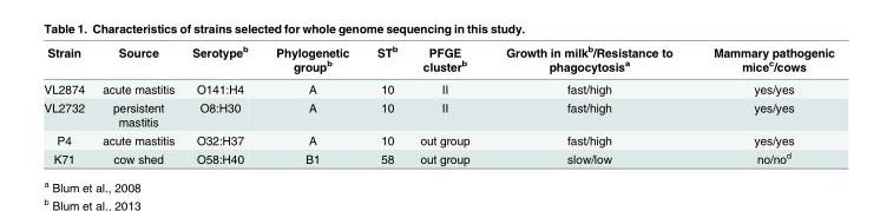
<table><thead><tr><td>Strain</td><td>Source</td><td>Serotype<sup>b</sup></td><td>Phylogenetic group<sup>b</sup></td><td>ST<sup>b</sup></td><td>PFGE cluster<sup>b</sup></td><td>Growth in milk<sup>b</sup>/Resistance to phagocytosis<sup>a</sup></td><td>Mammary pathogenic mice<sup>c</sup>/cows</td></tr></thead><tbody><tr><td>VL2874</td><td>acute mastitis</td><td>O141:H4</td><td>A</td><td>10</td><td>II</td><td>fast/high</td><td>yes/yes</td></tr><tr><td>VL2732</td><td>persistent mastitis</td><td>O8:H30</td><td>A</td><td>10</td><td>II</td><td>fast/high</td><td>yes/yes</td></tr><tr><td>P4</td><td>acute mastitis</td><td>O32:H37</td><td>A</td><td>10</td><td>out group</td><td>fast/high</td><td>yes/yes</td></tr><tr><td>K71</td><td>cow shed</td><td>O58:H40</td><td>B1</td><td>58</td><td>out group</td><td>slow/low</td><td>no/no<sup>d</sup></td></tr></tbody></table>